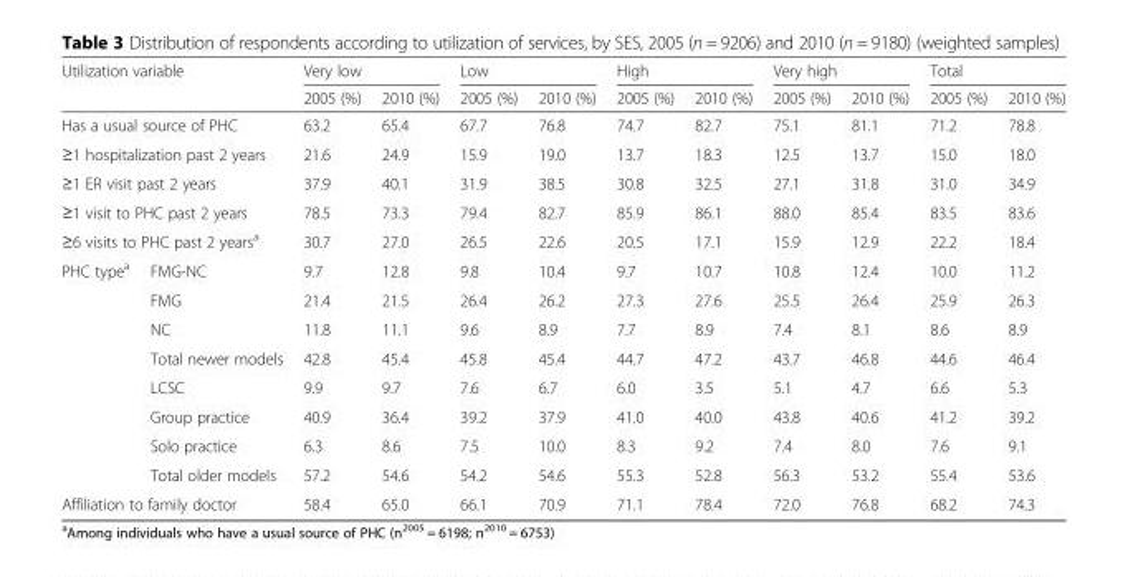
<table><thead><tr><td rowspan="2" colspan="2">Utilization variable</td><td colspan="2">Very low</td><td colspan="2">Low</td><td colspan="2">High</td><td colspan="2">Very high</td><td colspan="2">Total</td></tr><tr><td>2005 (%)</td><td>2010 (%)</td><td>2005 (%)</td><td>2010 (%)</td><td>2005 (%)</td><td>2010 (%)</td><td>2005 (%)</td><td>2010 (%)</td><td>2005 (%)</td><td>2010 (%)</td></tr></thead><tbody><tr><td colspan="2">Has a usual source of PHC</td><td>63.2</td><td>65.4</td><td>67.7</td><td>76.8</td><td>74.7</td><td>82.7</td><td>75.1</td><td>81.1</td><td>71.2</td><td>78.8</td></tr><tr><td colspan="2">≥1 hospitalization past 2 years</td><td>21.6</td><td>24.9</td><td>15.9</td><td>19.0</td><td>13.7</td><td>18.3</td><td>12.5</td><td>13.7</td><td>15.0</td><td>18.0</td></tr><tr><td colspan="2">≥1 ER visit past 2 years</td><td>37.9</td><td>40.1</td><td>31.9</td><td>38.5</td><td>30.8</td><td>32.5</td><td>27.1</td><td>31.8</td><td>31.0</td><td>34.9</td></tr><tr><td colspan="2">≥1 visit to PHC past 2 years</td><td>78.5</td><td>73.3</td><td>79.4</td><td>82.7</td><td>85.9</td><td>86.1</td><td>88.0</td><td>85.4</td><td>83.5</td><td>83.6</td></tr><tr><td colspan="2">≥6 visits to PHC past 2 years<sup>a</sup></td><td>30.7</td><td>27.0</td><td>26.5</td><td>22.6</td><td>20.5</td><td>17.1</td><td>15.9</td><td>12.9</td><td>22.2</td><td>18.4</td></tr><tr><td rowspan="8">PHC type<sup>a</sup></td><td>FMG-NC</td><td>9.7</td><td>12.8</td><td>9.8</td><td>10.4</td><td>9.7</td><td>10.7</td><td>10.8</td><td>12.4</td><td>10.0</td><td>11.2</td></tr><tr><td>FMG</td><td>21.4</td><td>21.5</td><td>26.4</td><td>26.2</td><td>27.3</td><td>27.6</td><td>25.5</td><td>26.4</td><td>25.9</td><td>26.3</td></tr><tr><td>NC</td><td>11.8</td><td>11.1</td><td>9.6</td><td>8.9</td><td>7.7</td><td>8.9</td><td>7.4</td><td>8.1</td><td>8.6</td><td>8.9</td></tr><tr><td>Total newer models</td><td>42.8</td><td>45.4</td><td>45.8</td><td>45.4</td><td>44.7</td><td>47.2</td><td>43.7</td><td>46.8</td><td>44.6</td><td>46.4</td></tr><tr><td>LCSC</td><td>9.9</td><td>9.7</td><td>7.6</td><td>6.7</td><td>6.0</td><td>3.5</td><td>5.1</td><td>4.7</td><td>6.6</td><td>5.3</td></tr><tr><td>Group practice</td><td>40.9</td><td>36.4</td><td>39.2</td><td>37.9</td><td>41.0</td><td>40.0</td><td>43.8</td><td>40.6</td><td>41.2</td><td>39.2</td></tr><tr><td>Solo practice</td><td>6.3</td><td>8.6</td><td>7.5</td><td>10.0</td><td>8.3</td><td>9.2</td><td>7.4</td><td>8.0</td><td>7.6</td><td>9.1</td></tr><tr><td>Total older models</td><td>57.2</td><td>54.6</td><td>54.2</td><td>54.6</td><td>55.3</td><td>52.8</td><td>56.3</td><td>53.2</td><td>55.4</td><td>53.6</td></tr><tr><td colspan="2">Affiliation to family doctor</td><td>58.4</td><td>65.0</td><td>66.1</td><td>70.9</td><td>71.1</td><td>78.4</td><td>72.0</td><td>76.8</td><td>68.2</td><td>74.3</td></tr></tbody></table>